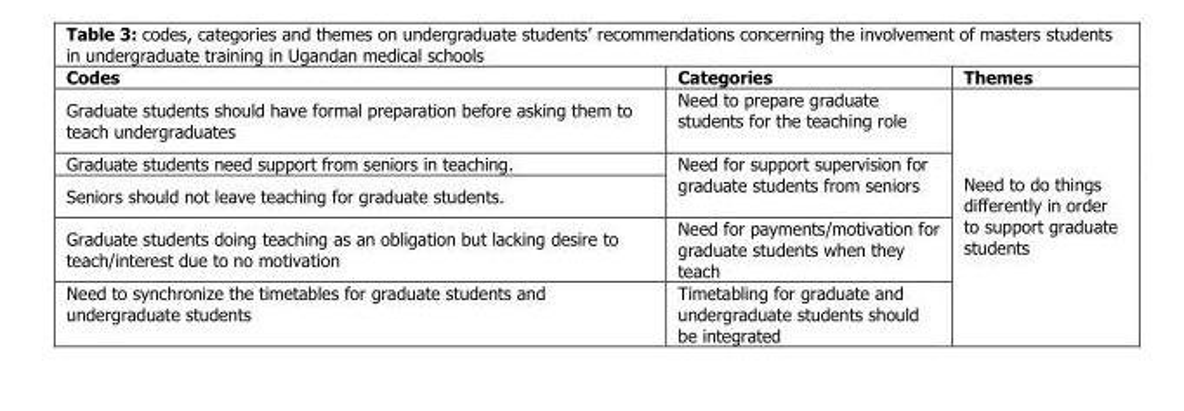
<table><thead><tr><td>Codes</td><td>Categories</td><td>Themes</td></tr></thead><tbody><tr><td>Graduate students should have formal preparation before asking them to teach undergraduates</td><td>Need to prepare graduate students for the teaching role</td><td rowspan="5">Need to do things differently in order to support graduate students</td></tr><tr><td>Graduate students need support from seniors in teaching.</td><td rowspan="2">Need for support supervision for graduate students from seniors</td></tr><tr><td>Seniors should not leave teaching for graduate students.</td></tr><tr><td>Graduate students doing teaching as an obligation but lacking desire to teach/interest due to no motivation</td><td>Need for payments/motivation for graduate students when they teach</td></tr><tr><td>Need to synchronize the timetables for graduate students and undergraduate students</td><td>Timetabling for graduate and undergraduate students should be integrated</td></tr></tbody></table>